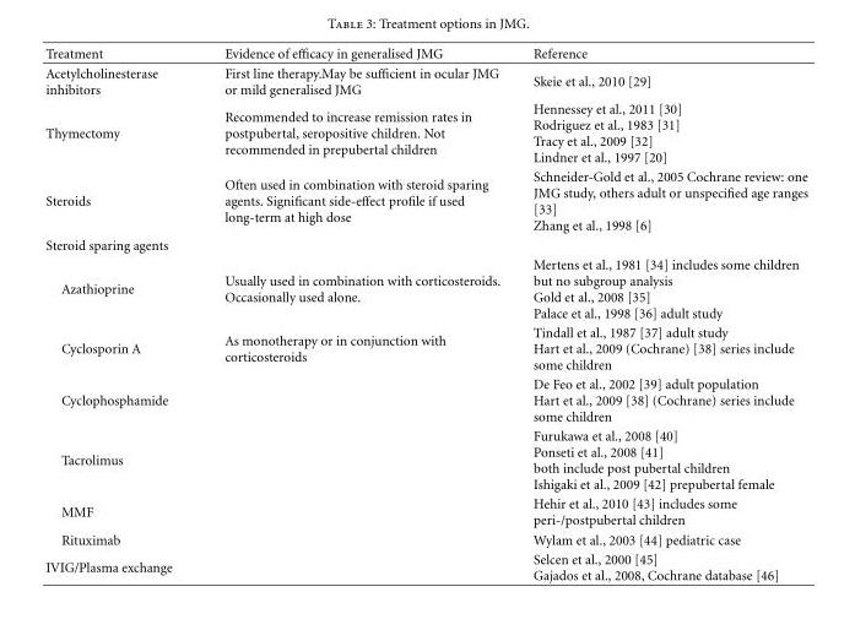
<table><thead><tr><td>Treatment</td><td>Evidence of efficacy in generalised JMG</td><td>Reference</td></tr></thead><tbody><tr><td>Acetylcholinesterase inhibitors</td><td>First line therapy.May be sufficient in ocular JMG or mild generalised JMG</td><td>Skeie et al., 2010 [29]</td></tr><tr><td>Thymectomy</td><td>Recommended to increase remission rates in postpubertal, seropositive children. Not recommended in prepubertal children</td><td>Hennessey et al., 2011 [30] Rodriguez et al., 1983 [31] Tracy et al., 2009 [32] Lindner et al., 1997 [20]</td></tr><tr><td>Steroids</td><td>Often used in combination with steroid sparing agents. Significant side-effect profile if used long-term at high dose</td><td>Schneider-Gold et al., 2005 Cochrane review: one JMG study, others adult or unspecified age ranges [33] Zhang et al., 1998 [6]</td></tr><tr><td colspan="3">Steroid sparing agents</td></tr><tr><td>Azathioprine</td><td>Usually used in combination with corticosteroids. Occasionally used alone.</td><td>Mertens et al., 1981 [34] includes some children but no subgroup analysis Gold et al., 2008 [35] Palace et al., 1998 [36] adult study</td></tr><tr><td>Cyclosporin A</td><td>As monotherapy or in conjunction with corticosteroids</td><td>Tindall et al., 1987 [37] adult study Hart et al., 2009 (Cochrane) [38] series include some children</td></tr><tr><td>Cyclophosphamide</td><td></td><td>De Feo et al., 2002 [39] adult population Hart et al., 2009 [38] (Cochrane) series include some children</td></tr><tr><td>Tacrolimus</td><td></td><td>Furukawa et al., 2008 [40] Ponseti et al., 2008 [41] both include post pubertal children Ishigaki et al., 2009 [42] prepubertal female</td></tr><tr><td>MMF</td><td></td><td>Hehir et al., 2010 [43] includes some peri-/postpubertal children</td></tr><tr><td>Rituximab</td><td></td><td>Wylam et al., 2003 [44] pediatric case</td></tr><tr><td>IVIG/Plasma exchange</td><td></td><td>Selcen et al., 2000 [45] Gajados et al., 2008, Cochrane database [46]</td></tr></tbody></table>